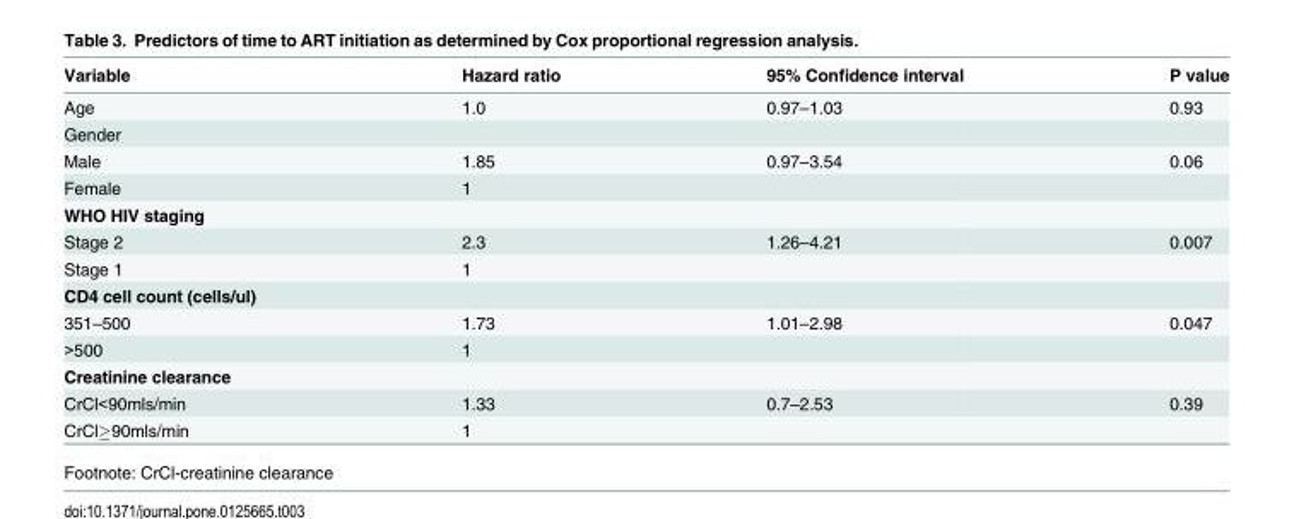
<table><thead><tr><td>Variable</td><td>Hazard ratio</td><td>95% Confidence interval</td><td>P value</td></tr></thead><tbody><tr><td>Age</td><td>1.0</td><td>0.97–1.03</td><td>0.93</td></tr><tr><td colspan="4">Gender</td></tr><tr><td>Male</td><td>1.85</td><td>0.97–3.54</td><td>0.06</td></tr><tr><td>Female</td><td>1</td><td></td><td></td></tr><tr><td colspan="4">WHO HIV staging</td></tr><tr><td>Stage 2</td><td>2.3</td><td>1.26–4.21</td><td>0.007</td></tr><tr><td>Stage 1</td><td>1</td><td></td><td></td></tr><tr><td colspan="4">CD4 cell count (cells/ul)</td></tr><tr><td>351–500</td><td>1.73</td><td>1.01–2.98</td><td>0.047</td></tr><tr><td>&gt;500</td><td>1</td><td></td><td></td></tr><tr><td colspan="4">Creatinine clearance</td></tr><tr><td>CrCl&lt;90mls/min</td><td>1.33</td><td>0.7–2.53</td><td>0.39</td></tr><tr><td>CrCl≥90mls/min</td><td>1</td><td></td><td></td></tr></tbody></table>